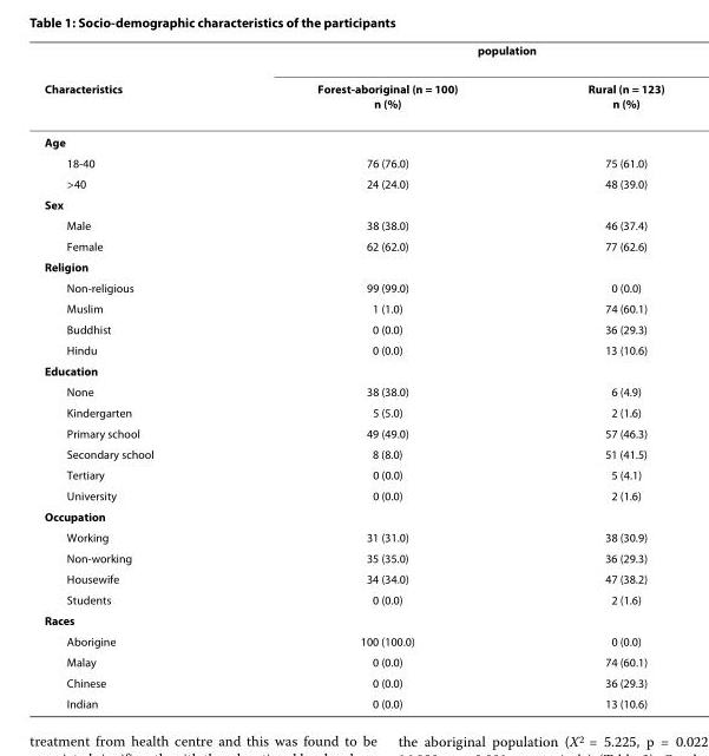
<table><thead><tr><td rowspan="2">Characteristics</td><td colspan="2">population</td></tr><tr><td>Forest-aboriginal (n = 100) n (%)</td><td>Rural (n = 123) n (%)</td></tr></thead><tbody><tr><td colspan="3">Age</td></tr><tr><td>18-40</td><td>76 (76.0)</td><td>75 (61.0)</td></tr><tr><td>&gt;40</td><td>24 (24.0)</td><td>48 (39.0)</td></tr><tr><td colspan="3">Sex</td></tr><tr><td>Male</td><td>38 (38.0)</td><td>46 (37.4)</td></tr><tr><td>Female</td><td>62 (62.0)</td><td>77 (62.6)</td></tr><tr><td colspan="3">Religion</td></tr><tr><td>Non-religious</td><td>99 (99.0)</td><td>0 (0.0)</td></tr><tr><td>Muslim</td><td>1 (1.0)</td><td>74 (60.1)</td></tr><tr><td>Buddhist</td><td>0 (0.0)</td><td>36 (29.3)</td></tr><tr><td>Hindu</td><td>0 (0.0)</td><td>13 (10.6)</td></tr><tr><td colspan="3">Education</td></tr><tr><td>None</td><td>38 (38.0)</td><td>6 (4.9)</td></tr><tr><td>Kindergarten</td><td>5 (5.0)</td><td>2 (1.6)</td></tr><tr><td>Primary school</td><td>49 (49.0)</td><td>57 (46.3)</td></tr><tr><td>Secondary school</td><td>8 (8.0)</td><td>51 (41.5)</td></tr><tr><td>Tertiary</td><td>0 (0.0)</td><td>5 (4.1)</td></tr><tr><td>University</td><td>0 (0.0)</td><td>2 (1.6)</td></tr><tr><td colspan="3">Occupation</td></tr><tr><td>Working</td><td>31 (31.0)</td><td>38 (30.9)</td></tr><tr><td>Non-working</td><td>35 (35.0)</td><td>36 (29.3)</td></tr><tr><td>Housewife</td><td>34 (34.0)</td><td>47 (38.2)</td></tr><tr><td>Students</td><td>0 (0.0)</td><td>2 (1.6)</td></tr><tr><td colspan="3">Races</td></tr><tr><td>Aborigine</td><td>100 (100.0)</td><td>0 (0.0)</td></tr><tr><td>Malay</td><td>0 (0.0)</td><td>74 (60.1)</td></tr><tr><td>Chinese</td><td>0 (0.0)</td><td>36 (29.3)</td></tr><tr><td>Indian</td><td>0 (0.0)</td><td>13 (10.6)</td></tr></tbody></table>